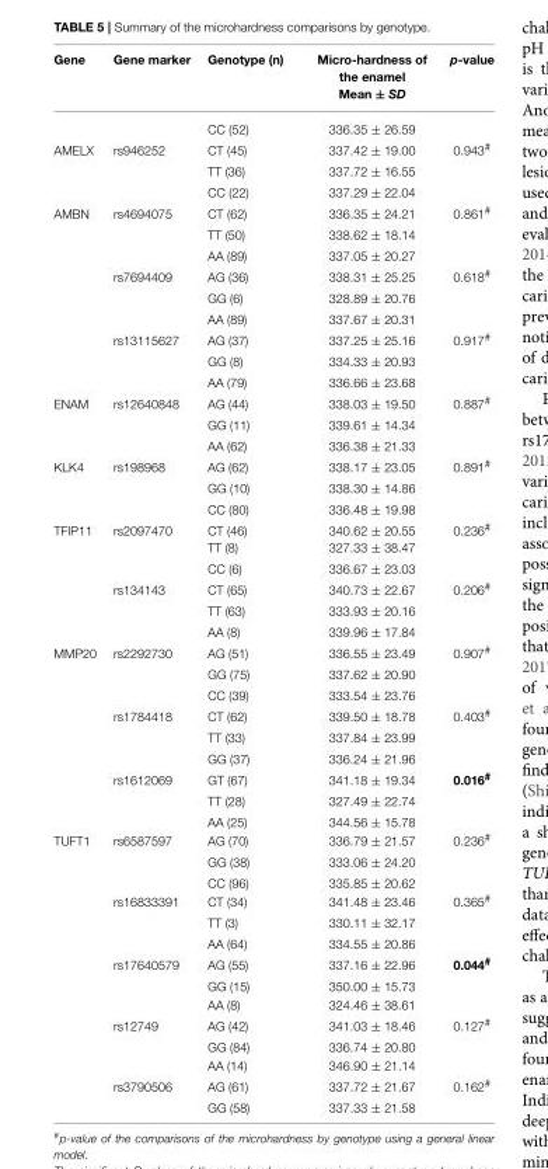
<table><thead><tr><td>Gene</td><td>Gene marker</td><td>Genotype (n)</td><td>Micro-hardness of the enamel Mean ± SD</td><td>p-value</td></tr></thead><tbody><tr><td></td><td></td><td>CC (52)</td><td>336.35 ± 26.59</td><td></td></tr><tr><td rowspan="3">AMELX</td><td>rs946252</td><td>CT (45)</td><td>337.42 ± 19.00</td><td>0.943<sup>#</sup></td></tr><tr><td></td><td>TT (36)</td><td>337.72 ± 16.55</td><td></td></tr><tr><td></td><td>CC (22)</td><td>337.29 ± 22.04</td><td></td></tr><tr><td rowspan="9">AMBN</td><td>rs4694075</td><td>CT (62)</td><td>336.35 ± 24.21</td><td>0.861<sup>#</sup></td></tr><tr><td></td><td>TT (50)</td><td>338.62 ± 18.14</td><td></td></tr><tr><td></td><td>AA (89)</td><td>337.05 ± 20.27</td><td></td></tr><tr><td>rs7694409</td><td>AG (36)</td><td>338.31 ± 25.25</td><td>0.618<sup>#</sup></td></tr><tr><td></td><td>GG (6)</td><td>328.89 ± 20.76</td><td></td></tr><tr><td></td><td>AA (89)</td><td>337.67 ± 20.31</td><td></td></tr><tr><td>rs13115627</td><td>AG (37)</td><td>337.25 ± 25.16</td><td>0.917<sup>#</sup></td></tr><tr><td></td><td>GG (8)</td><td>334.33 ± 20.93</td><td></td></tr><tr><td></td><td>AA (79)</td><td>336.66 ± 23.68</td><td></td></tr><tr><td rowspan="3">ENAM</td><td>rs12640848</td><td>AG (44)</td><td>338.03 ± 19.50</td><td>0.887<sup>#</sup></td></tr><tr><td></td><td>GG (11)</td><td>339.61 ± 14.34</td><td></td></tr><tr><td></td><td>AA (62)</td><td>336.38 ± 21.33</td><td></td></tr><tr><td rowspan="3">KLK4</td><td>rs198968</td><td>AG (62)</td><td>338.17 ± 23.05</td><td>0.891<sup>#</sup></td></tr><tr><td></td><td>GG (10)</td><td>338.30 ± 14.86</td><td></td></tr><tr><td></td><td>CC (80)</td><td>336.48 ± 19.98</td><td></td></tr><tr><td rowspan="5">TFIP11</td><td>rs2097470</td><td>CT (46) TT (8)</td><td>340.62 ± 20.55 327.33 ± 38.47</td><td>0.236<sup>#</sup></td></tr><tr><td></td><td>CC (6)</td><td>336.67 ± 23.03</td><td></td></tr><tr><td>rs134143</td><td>CT (65)</td><td>340.73 ± 22.67</td><td>0.206<sup>#</sup></td></tr><tr><td></td><td>TT (63)</td><td>333.93 ± 20.16</td><td></td></tr><tr><td></td><td>AA (8)</td><td>339.96 ± 17.84</td><td></td></tr><tr><td rowspan="9">MMP20</td><td>rs2292730</td><td>AG (51)</td><td>336.55 ± 23.49</td><td>0.907<sup>#</sup></td></tr><tr><td></td><td>GG (75)</td><td>337.62 ± 20.90</td><td></td></tr><tr><td></td><td>CC (39)</td><td>333.54 ± 23.76</td><td></td></tr><tr><td>rs1784418</td><td>CT (62)</td><td>339.50 ± 18.78</td><td>0.403<sup>#</sup></td></tr><tr><td></td><td>TT (33)</td><td>337.84 ± 23.99</td><td></td></tr><tr><td></td><td>GG (37)</td><td>336.24 ± 21.96</td><td></td></tr><tr><td>rs1612069</td><td>GT (67)</td><td>341.18 ± 19.34</td><td>0.016<sup>#</sup></td></tr><tr><td></td><td>TT (28)</td><td>327.49 ± 22.74</td><td></td></tr><tr><td></td><td>AA (25)</td><td>344.56 ± 15.78</td><td></td></tr><tr><td rowspan="14">TUFT1</td><td>rs6587597</td><td>AG (70)</td><td>336.79 ± 21.57</td><td>0.236<sup>#</sup></td></tr><tr><td></td><td>GG (38)</td><td>333.06 ± 24.20</td><td></td></tr><tr><td></td><td>CC (96)</td><td>335.85 ± 20.62</td><td></td></tr><tr><td>rs16833391</td><td>CT (34)</td><td>341.48 ± 23.46</td><td>0.365<sup>#</sup></td></tr><tr><td></td><td>TT (3)</td><td>330.11 ± 32.17</td><td></td></tr><tr><td></td><td>AA (64)</td><td>334.55 ± 20.86</td><td></td></tr><tr><td>rs17640579</td><td>AG (55)</td><td>337.16 ± 22.96</td><td>0.044<sup>#</sup></td></tr><tr><td></td><td>GG (15)</td><td>350.00 ± 15.73</td><td></td></tr><tr><td></td><td>AA (8)</td><td>324.46 ± 38.61</td><td></td></tr><tr><td>rs12749</td><td>AG (42)</td><td>341.03 ± 18.46</td><td>0.127<sup>#</sup></td></tr><tr><td></td><td>GG (84)</td><td>336.74 ± 20.80</td><td></td></tr><tr><td></td><td>AA (14)</td><td>346.90 ± 21.14</td><td></td></tr><tr><td>rs3790506</td><td>AG (61)</td><td>337.72 ± 21.67</td><td>0.162<sup>#</sup></td></tr><tr><td></td><td>GG (58)</td><td>337.33 ± 21.58</td><td></td></tr></tbody></table>